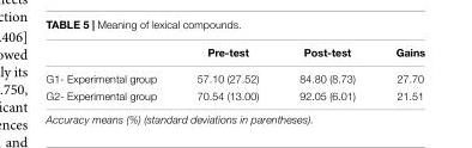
<table><thead><tr><td></td><td>Pre-test</td><td>Post-test</td><td>Gains</td></tr></thead><tbody><tr><td>G1- Experimental group</td><td>57.10 (27.52)</td><td>84.80 (8.73)</td><td>27.70</td></tr><tr><td>G2- Experimental group</td><td>70.54 (13.00)</td><td>92.05 (6.01)</td><td>21.51</td></tr></tbody></table>